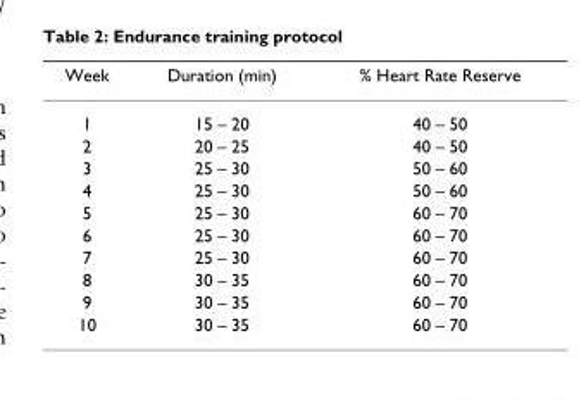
<table><thead><tr><td>Week</td><td>Duration (min)</td><td>% Heart Rate Reserve</td></tr></thead><tbody><tr><td>1</td><td>15 – 20</td><td>40 – 50</td></tr><tr><td>2</td><td>20 – 25</td><td>40 – 50</td></tr><tr><td>3</td><td>25 – 30</td><td>50 – 60</td></tr><tr><td>4</td><td>25 – 30</td><td>50 – 60</td></tr><tr><td>5</td><td>25 – 30</td><td>60 – 70</td></tr><tr><td>6</td><td>25 – 30</td><td>60 – 70</td></tr><tr><td>7</td><td>25 – 30</td><td>60 – 70</td></tr><tr><td>8</td><td>30 – 35</td><td>60 – 70</td></tr><tr><td>9</td><td>30 – 35</td><td>60 – 70</td></tr><tr><td>10</td><td>30 – 35</td><td>60 – 70</td></tr></tbody></table>